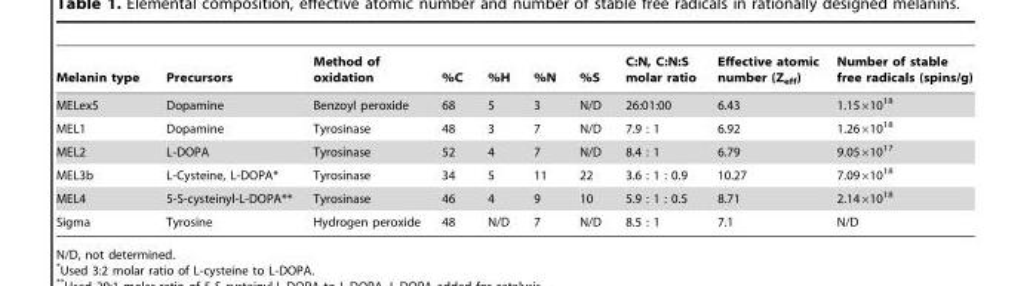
<table><thead><tr><td>Melanin type</td><td>Precursors</td><td>Method of oxidation</td><td>%C</td><td>%H</td><td>%N</td><td>%S</td><td>C:N, C:N:S molar ratio</td><td>Effective atomic number (Z<sub>eff</sub>)</td><td>Number of stable free radicals (spins/g)</td></tr></thead><tbody><tr><td>MELex5</td><td>Dopamine</td><td>Benzoyl peroxide</td><td>68</td><td>5</td><td>3</td><td>N/D</td><td>26:01:00</td><td>6.43</td><td>1.15×10<sup>18</sup></td></tr><tr><td>MEL1</td><td>Dopamine</td><td>Tyrosinase</td><td>48</td><td>3</td><td>7</td><td>N/D</td><td>7.9 : 1</td><td>6.92</td><td>1.26×10<sup>18</sup></td></tr><tr><td>MEL2</td><td>L-DOPA</td><td>Tyrosinase</td><td>52</td><td>4</td><td>7</td><td>N/D</td><td>8.4 : 1</td><td>6.79</td><td>9.05×10<sup>17</sup></td></tr><tr><td>MEL3b</td><td>L-Cysteine, L-DOPA*</td><td>Tyrosinase</td><td>34</td><td>5</td><td>11</td><td>22</td><td>3.6 : 1 : 0.9</td><td>10.27</td><td>7.09×10<sup>18</sup></td></tr><tr><td>MEL4</td><td>5-S-cysteinyl-L-DOPA**</td><td>Tyrosinase</td><td>46</td><td>4</td><td>9</td><td>10</td><td>5.9 : 1 : 0.5</td><td>8.71</td><td>2.14×10<sup>18</sup></td></tr><tr><td>Sigma</td><td>Tyrosine</td><td>Hydrogen peroxide</td><td>48</td><td>N/D</td><td>7</td><td>N/D</td><td>8.5 : 1</td><td>7.1</td><td>N/D</td></tr></tbody></table>